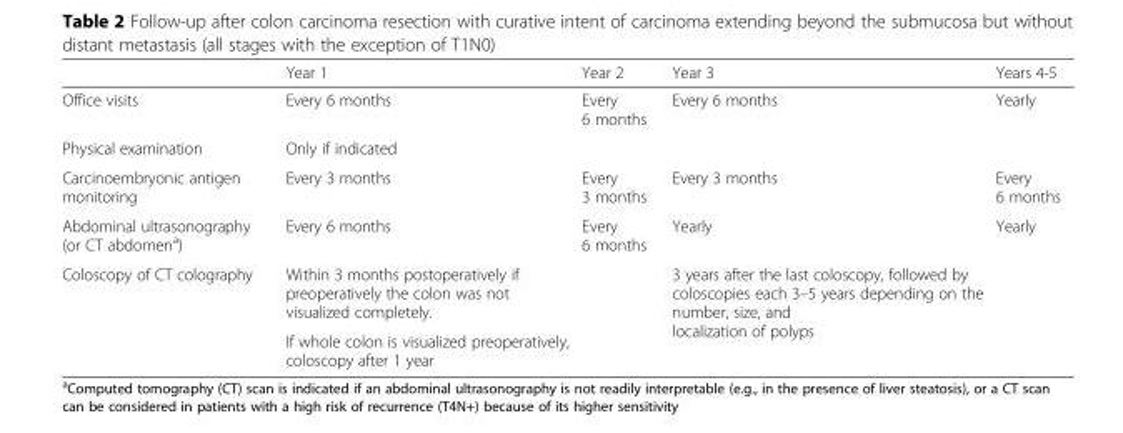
<table><thead><tr><td></td><td>Year 1</td><td>Year 2</td><td>Year 3</td><td>Years 4-5</td></tr></thead><tbody><tr><td>Office visits</td><td>Every 6 months</td><td>Every 6 months</td><td>Every 6 months</td><td>Yearly</td></tr><tr><td>Physical examination</td><td colspan="4">Only if indicated</td></tr><tr><td>Carcinoembryonic antigen monitoring</td><td>Every 3 months</td><td>Every 3 months</td><td>Every 3 months</td><td>Every 6 months</td></tr><tr><td>Abdominal ultrasonography (or CT abdomen<sup>a</sup>)</td><td>Every 6 months</td><td>Every 6 months</td><td>Yearly</td><td>Yearly</td></tr><tr><td rowspan="2">Coloscopy of CT colography</td><td>Within 3 months postoperatively if preoperatively the colon was not visualized completely.</td><td rowspan="2"></td><td rowspan="2">3 years after the last coloscopy, followed by coloscopies each 3–5 years depending on the number, size, and localization of polyps</td><td rowspan="2"></td></tr><tr><td>If whole colon is visualized preoperatively, coloscopy after 1 year</td></tr></tbody></table>